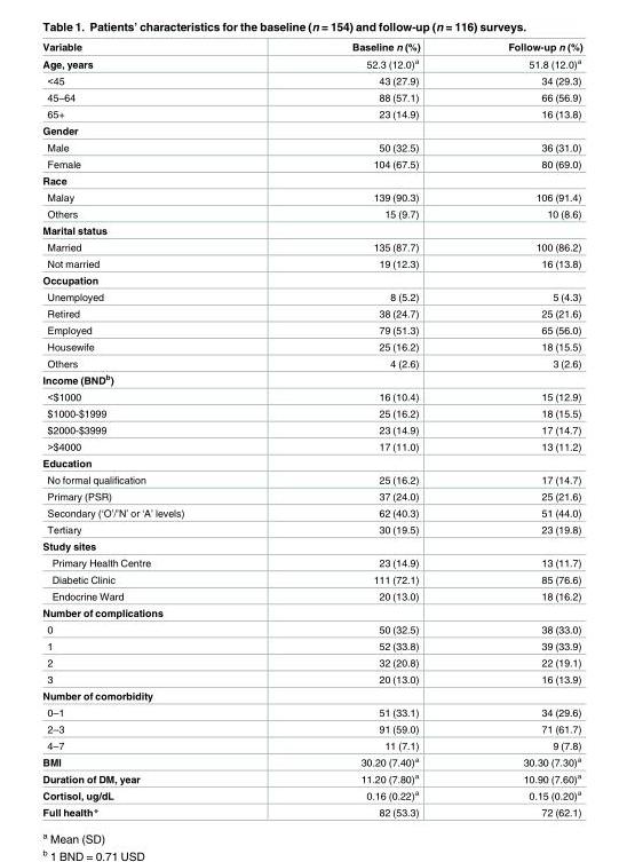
<table><thead><tr><td>Variable</td><td>Baseline n (%)</td><td>Follow-up n (%)</td></tr></thead><tbody><tr><td>Age, years</td><td>52.3 (12.0)<sup>a</sup></td><td>51.8 (12.0)<sup>a</sup></td></tr><tr><td>&lt;45</td><td>43 (27.9)</td><td>34 (29.3)</td></tr><tr><td>45–64</td><td>88 (57.1)</td><td>66 (56.9)</td></tr><tr><td>65+</td><td>23 (14.9)</td><td>16 (13.8)</td></tr><tr><td colspan="3">Gender</td></tr><tr><td>Male</td><td>50 (32.5)</td><td>36 (31.0)</td></tr><tr><td>Female</td><td>104 (67.5)</td><td>80 (69.0)</td></tr><tr><td colspan="3">Race</td></tr><tr><td>Malay</td><td>139 (90.3)</td><td>106 (91.4)</td></tr><tr><td>Others</td><td>15 (9.7)</td><td>10 (8.6)</td></tr><tr><td colspan="3">Marital status</td></tr><tr><td>Married</td><td>135 (87.7)</td><td>100 (86.2)</td></tr><tr><td>Not married</td><td>19 (12.3)</td><td>16 (13.8)</td></tr><tr><td colspan="3">Occupation</td></tr><tr><td>Unemployed</td><td>8 (5.2)</td><td>5 (4.3)</td></tr><tr><td>Retired</td><td>38 (24.7)</td><td>25 (21.6)</td></tr><tr><td>Employed</td><td>79 (51.3)</td><td>65 (56.0)</td></tr><tr><td>Housewife</td><td>25 (16.2)</td><td>18 (15.5)</td></tr><tr><td>Others</td><td>4 (2.6)</td><td>3 (2.6)</td></tr><tr><td colspan="3">Income (BND<sup>b</sup>)</td></tr><tr><td>&lt;$1000</td><td>16 (10.4)</td><td>15 (12.9)</td></tr><tr><td>$1000-$1999</td><td>25 (16.2)</td><td>18 (15.5)</td></tr><tr><td>$2000-$3999</td><td>23 (14.9)</td><td>17 (14.7)</td></tr><tr><td>&gt;$4000</td><td>17 (11.0)</td><td>13 (11.2)</td></tr><tr><td colspan="3">Education</td></tr><tr><td>No formal qualification</td><td>25 (16.2)</td><td>17 (14.7)</td></tr><tr><td>Primary (PSR)</td><td>37 (24.0)</td><td>25 (21.6)</td></tr><tr><td>Secondary (‘O’/’N’ or ‘A’ levels)</td><td>62 (40.3)</td><td>51 (44.0)</td></tr><tr><td>Tertiary</td><td>30 (19.5)</td><td>23 (19.8)</td></tr><tr><td colspan="3">Study sites</td></tr><tr><td>Primary Health Centre</td><td>23 (14.9)</td><td>13 (11.7)</td></tr><tr><td>Diabetic Clinic</td><td>111 (72.1)</td><td>85 (76.6)</td></tr><tr><td>Endocrine Ward</td><td>20 (13.0)</td><td>18 (16.2)</td></tr><tr><td colspan="3">Number of complications</td></tr><tr><td>0</td><td>50 (32.5)</td><td>38 (33.0)</td></tr><tr><td>1</td><td>52 (33.8)</td><td>39 (33.9)</td></tr><tr><td>2</td><td>32 (20.8)</td><td>22 (19.1)</td></tr><tr><td>3</td><td>20 (13.0)</td><td>16 (13.9)</td></tr><tr><td colspan="3">Number of comorbidity</td></tr><tr><td>0–1</td><td>51 (33.1)</td><td>34 (29.6)</td></tr><tr><td>2–3</td><td>91 (59.0)</td><td>71 (61.7)</td></tr><tr><td>4–7</td><td>11 (7.1)</td><td>9 (7.8)</td></tr><tr><td>BMI</td><td>30.20 (7.40)<sup>a</sup></td><td>30.30 (7.30)<sup>a</sup></td></tr><tr><td>Duration of DM, year</td><td>11.20 (7.80)<sup>a</sup></td><td>10.90 (7.60)<sup>a</sup></td></tr><tr><td>Cortisol, ug/dL</td><td>0.16 (0.22)<sup>a</sup></td><td>0.15 (0.20)<sup>a</sup></td></tr><tr><td>Full health*</td><td>82 (53.3)</td><td>72 (62.1)</td></tr></tbody></table>